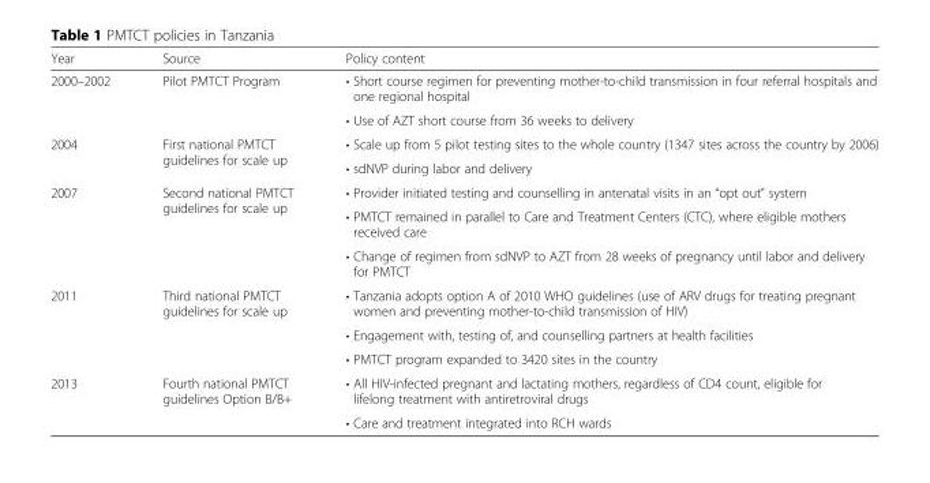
<table><thead><tr><td>Year</td><td>Source</td><td>Policy content</td></tr></thead><tbody><tr><td rowspan="2">2000–2002</td><td rowspan="2">Pilot PMTCT Program</td><td>• Short course regimen for preventing mother-to-child transmission in four referral hospitals and one regional hospital</td></tr><tr><td>• Use of AZT short course from 36 weeks to delivery</td></tr><tr><td rowspan="2">2004</td><td rowspan="2">First national PMTCT guidelines for scale up</td><td>• Scale up from 5 pilot testing sites to the whole country (1347 sites across the country by 2006)</td></tr><tr><td>• sdNVP during labor and delivery</td></tr><tr><td rowspan="3">2007</td><td rowspan="3">Second national PMTCT guidelines for scale up</td><td>• Provider initiated testing and counselling in antenatal visits in an “opt out” system</td></tr><tr><td>• PMTCT remained in parallel to Care and Treatment Centers (CTC), where eligible mothers received care</td></tr><tr><td>• Change of regimen from sdNVP to AZT from 28 weeks of pregnancy until labor and delivery for PMTCT</td></tr><tr><td rowspan="3">2011</td><td rowspan="3">Third national PMTCT guidelines for scale up</td><td>• Tanzania adopts option A of 2010 WHO guidelines (use of ARV drugs for treating pregnant women and preventing mother-to-child transmission of HIV)</td></tr><tr><td>• Engagement with, testing of, and counselling partners at health facilities</td></tr><tr><td>• PMTCT program expanded to 3420 sites in the country</td></tr><tr><td rowspan="2">2013</td><td rowspan="2">Fourth national PMTCT guidelines Option B/B+</td><td>• All HIV-infected pregnant and lactating mothers, regardless of CD4 count, eligible for lifelong treatment with antiretroviral drugs</td></tr><tr><td>• Care and treatment integrated into RCH wards</td></tr></tbody></table>